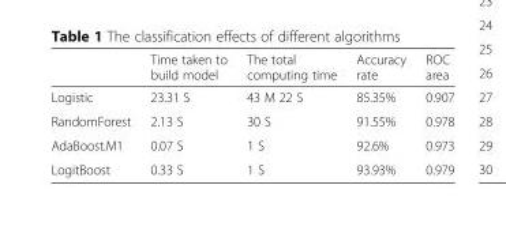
<table><thead><tr><td></td><td>Time taken to build model</td><td>The total computing time</td><td>Accuracy rate</td><td>ROC area</td></tr></thead><tbody><tr><td>Logistic</td><td>23.31 S</td><td>43 M 22 S</td><td>85.35%</td><td>0.907</td></tr><tr><td>RandomForest</td><td>2.13 S</td><td>30 S</td><td>91.55%</td><td>0.978</td></tr><tr><td>AdaBoost.M1</td><td>0.07 S</td><td>1 S</td><td>92.6%</td><td>0.973</td></tr><tr><td>LogitBoost</td><td>0.33 S</td><td>1 S</td><td>93.93%</td><td>0.979</td></tr></tbody></table>